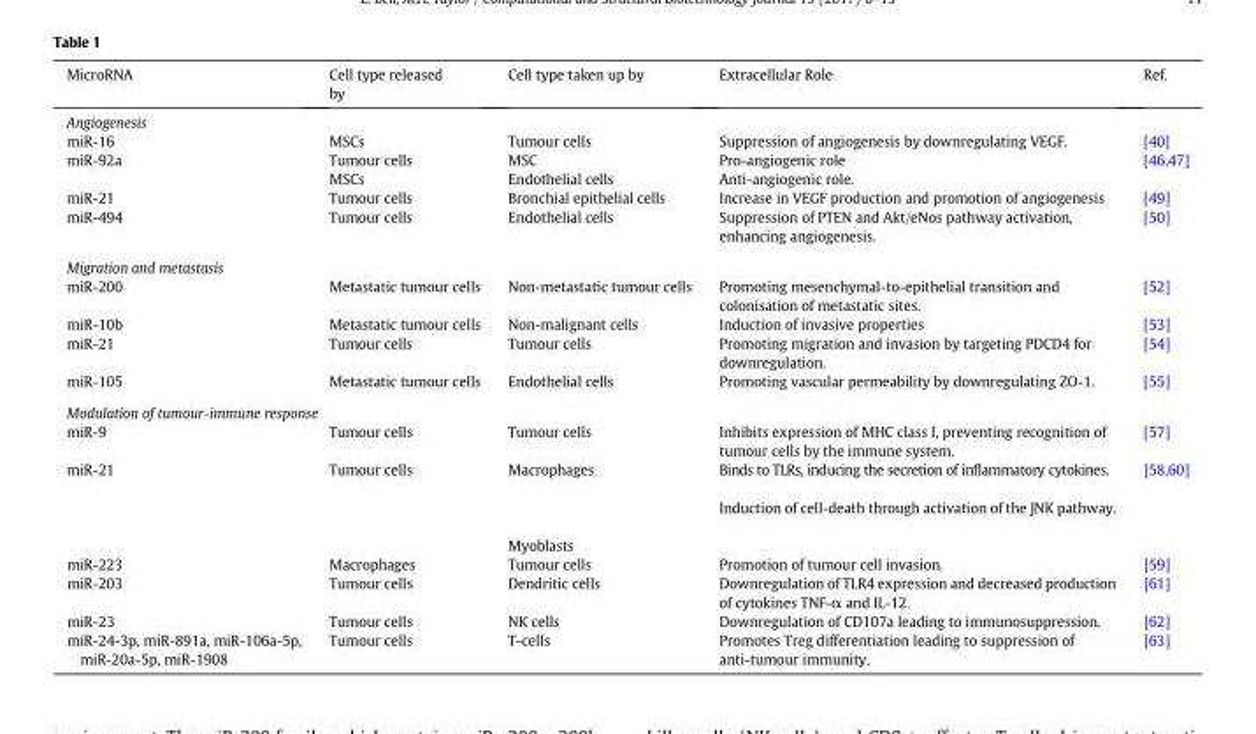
<table><thead><tr><td>MicroRNA</td><td>Cell type released by</td><td>Cell type taken up by</td><td>Extracellular Role</td><td>Ref.</td></tr></thead><tbody><tr><td colspan="5">Angiogenesis</td></tr><tr><td>miR-16</td><td>MSCs</td><td>Tumour cells</td><td>Suppression of angiogenesis by downregulating VEGF.</td><td>[40]</td></tr><tr><td>miR-92a</td><td>Tumour cells MSCs</td><td>MSC Endothelial cells</td><td>Pro-angiogenic role Anti-angiogenic role.</td><td>[46,47]</td></tr><tr><td>miR-21</td><td>Tumour cells</td><td>Bronchial epithelial cells</td><td>Increase in VEGF production and promotion of angiogenesis</td><td>[49]</td></tr><tr><td>miR-494</td><td>Tumour cells</td><td>Endothelial cells</td><td>Suppression of PTEN and Akt/eNos pathway activation, enhancing angiogenesis.</td><td>[50]</td></tr><tr><td colspan="5">Migration and metastasis</td></tr><tr><td>miR-200</td><td>Metastatic tumour cells</td><td>Non-metastatic tumour cells</td><td>Promoting mesenchymal-to-epithelial transition and colonisation of metastatic sites.</td><td>[52]</td></tr><tr><td>miR-10b</td><td>Metastatic tumour cells</td><td>Non-malignant cells</td><td>Induction of invasive properties</td><td>[53]</td></tr><tr><td>miR-21</td><td>Tumour cells</td><td>Tumour cells</td><td>Promoting migration and invasion by targeting PDCD4 for downregulation.</td><td>[54]</td></tr><tr><td>miR-105</td><td>Metastatic tumour cells</td><td>Endothelial cells</td><td>Promoting vascular permeability by downregulating ZO-1.</td><td>[55]</td></tr><tr><td colspan="5">Modulation of tumour-immune response</td></tr><tr><td>miR-9</td><td>Tumour cells</td><td>Tumour cells</td><td>Inhibits expression of MHC class I, preventing recognition of tumour cells by the immune system.</td><td>[57]</td></tr><tr><td>miR-21</td><td>Tumour cells</td><td>Macrophages Myoblasts</td><td>Binds to TLRs, inducing the secretion of inflammatory cytokines. Induction of cell-death through activation of the JNK pathway.</td><td>[58,60]</td></tr><tr><td>miR-223</td><td>Macrophages</td><td>Tumour cells</td><td>Promotion of tumour cell invasion.</td><td>[59]</td></tr><tr><td>miR-203</td><td>Tumour cells</td><td>Dendritic cells</td><td>Downregulation of TLR4 expression and decreased production of cytokines TNF-α and IL-12.</td><td>[61]</td></tr><tr><td>miR-23</td><td>Tumour cells</td><td>NK cells</td><td>Downregulation of CD107a leading to immunosuppression.</td><td>[62]</td></tr><tr><td>miR-24-3p, miR-891a, miR-106a-5p, miR-20a-5p, miR-1908</td><td>Tumour cells</td><td>T-cells</td><td>Promotes Treg differentiation leading to suppression of anti-tumour immunity.</td><td>[63]</td></tr></tbody></table>